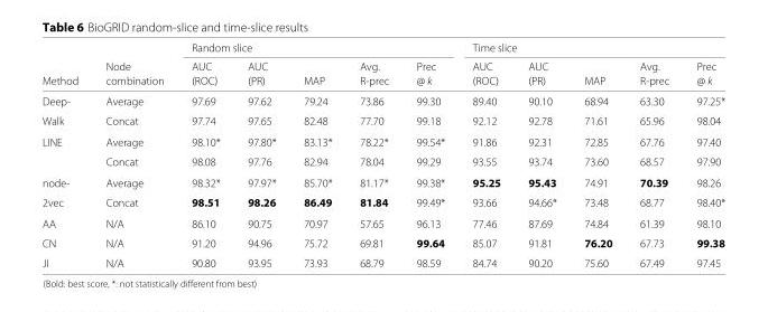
<table><thead><tr><td rowspan="3">Method</td><td rowspan="3">Node combination</td><td colspan="5">Random slice</td><td colspan="5">Time slice</td></tr><tr><td rowspan="2">AUC (ROC)</td><td rowspan="2">AUC (PR)</td><td rowspan="2">MAP</td><td rowspan="2">Avg. R-prec</td><td rowspan="2">Prec @ k</td><td rowspan="2">AUC (ROC)</td><td rowspan="2">AUC (PR)</td><td rowspan="2">MAP</td><td rowspan="2">Avg. R-prec</td><td rowspan="2">Prec @ k</td></tr><tr></tr></thead><tbody><tr><td>Deep-</td><td>Average</td><td>97.69</td><td>97.62</td><td>79.24</td><td>73.86</td><td>99.30</td><td>89.40</td><td>90.10</td><td>68.94</td><td>63.30</td><td>97.25*</td></tr><tr><td>Walk</td><td>Concat</td><td>97.74</td><td>97.65</td><td>82.48</td><td>77.70</td><td>99.18</td><td>92.12</td><td>92.78</td><td>71.61</td><td>65.96</td><td>98.04</td></tr><tr><td rowspan="2">LINE</td><td>Average</td><td>98.10*</td><td>97.80*</td><td>83.13*</td><td>78.22*</td><td>99.54*</td><td>91.86</td><td>92.31</td><td>72.85</td><td>67.76</td><td>97.40</td></tr><tr><td>Concat</td><td>98.08</td><td>97.76</td><td>82.94</td><td>78.04</td><td>99.29</td><td>93.55</td><td>93.74</td><td>73.60</td><td>68.57</td><td>97.90</td></tr><tr><td>node-</td><td>Average</td><td>98.32*</td><td>97.97*</td><td>85.70*</td><td>81.17*</td><td>99.38*</td><td>95.25</td><td>95.43</td><td>74.91</td><td>70.39</td><td>98.26</td></tr><tr><td>2vec</td><td>Concat</td><td>98.51</td><td>98.26</td><td>86.49</td><td>81.84</td><td>99.49*</td><td>93.66</td><td>94.66*</td><td>73.48</td><td>68.77</td><td>98.40*</td></tr><tr><td>AA</td><td>N/A</td><td>86.10</td><td>90.75</td><td>70.97</td><td>57.65</td><td>96.13</td><td>77.46</td><td>87.69</td><td>74.84</td><td>61.39</td><td>98.10</td></tr><tr><td>CN</td><td>N/A</td><td>91.20</td><td>94.96</td><td>75.72</td><td>69.81</td><td>99.64</td><td>85.07</td><td>91.81</td><td>76.20</td><td>67.73</td><td>99.38</td></tr><tr><td>JI</td><td>N/A</td><td>90.80</td><td>93.95</td><td>73.93</td><td>68.79</td><td>98.59</td><td>84.74</td><td>90.20</td><td>75.60</td><td>67.49</td><td>97.45</td></tr></tbody></table>